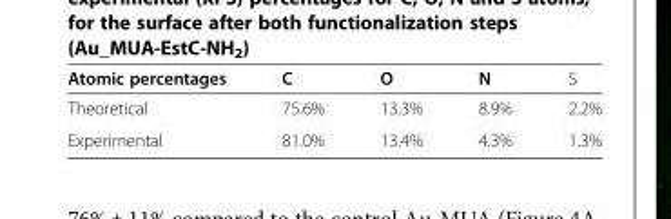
<table><thead><tr><td>Atomic percentages</td><td>C</td><td>O</td><td>N</td><td>S</td></tr></thead><tbody><tr><td>Theoretical</td><td>75.6%</td><td>13.3%</td><td>8.9%</td><td>2.2%</td></tr><tr><td>Experimental</td><td>81.0%</td><td>13.4%</td><td>4.3%</td><td>1.3%</td></tr></tbody></table>